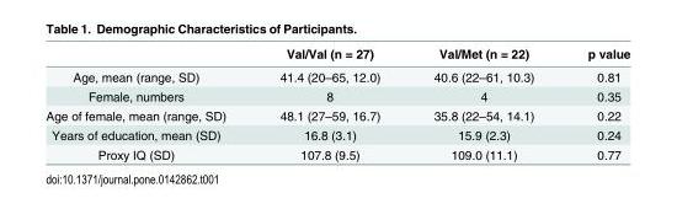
<table><thead><tr><td></td><td>Val/Val (n = 27)</td><td>Val/Met (n = 22)</td><td>p value</td></tr></thead><tbody><tr><td>Age, mean (range, SD)</td><td>41.4 (20–65, 12.0)</td><td>40.6 (22–61, 10.3)</td><td>0.81</td></tr><tr><td>Female, numbers</td><td>8</td><td>4</td><td>0.35</td></tr><tr><td>Age of female, mean (range, SD)</td><td>48.1 (27–59, 16.7)</td><td>35.8 (22–54, 14.1)</td><td>0.22</td></tr><tr><td>Years of education, mean (SD)</td><td>16.8 (3.1)</td><td>15.9 (2.3)</td><td>0.24</td></tr><tr><td>Proxy IQ (SD)</td><td>107.8 (9.5)</td><td>109.0 (11.1)</td><td>0.77</td></tr></tbody></table>